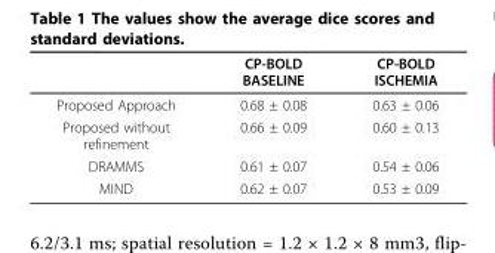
<table><thead><tr><td></td><td>CP-BOLD BASELINE</td><td>CP-BOLD ISCHEMIA</td></tr></thead><tbody><tr><td>Proposed Approach</td><td>0.68 ± 0.08</td><td>0.63 ± 0.06</td></tr><tr><td>Proposed without refinement</td><td>0.66 ± 0.09</td><td>0.60 ± 0.13</td></tr><tr><td>DRAMMS</td><td>0.61 ± 0.07</td><td>0.54 ± 0.06</td></tr><tr><td>MIND</td><td>0.62 ± 0.07</td><td>0.53 ± 0.09</td></tr></tbody></table>